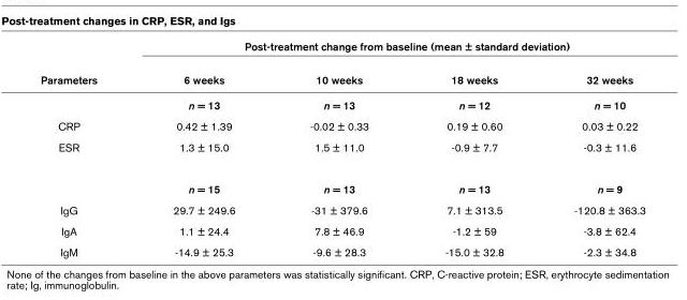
<table><thead><tr><td rowspan="2">Parameters</td><td colspan="4">Post-treatment change from baseline (mean ± standard deviation)</td></tr><tr><td>6 weeks</td><td>10 weeks</td><td>18 weeks</td><td>32 weeks</td></tr></thead><tbody><tr><td></td><td>n = 13</td><td>n = 13</td><td>n = 12</td><td>n = 10</td></tr><tr><td>CRP</td><td>0.42 ± 1.39</td><td>-0.02 ± 0.33</td><td>0.19 ± 0.60</td><td>0.03 ± 0.22</td></tr><tr><td rowspan="2">ESR</td><td>1.3 ± 15.0</td><td>1.5 ± 11.0</td><td>-0.9 ± 7.7</td><td>-0.3 ± 11.6</td></tr><tr><td>n = 15</td><td>n = 13</td><td>n = 13</td><td>n = 9</td></tr><tr><td>IgG</td><td>29.7 ± 249.6</td><td>-31 ± 379.6</td><td>7.1 ± 313.5</td><td>-120.8 ± 363.3</td></tr><tr><td>IgA</td><td>1.1 ± 24.4</td><td>7.8 ± 46.9</td><td>-1.2 ± 59</td><td>-3.8 ± 62.4</td></tr><tr><td>IgM</td><td>-14.9 ± 25.3</td><td>-9.6 ± 28.3</td><td>-15.0 ± 32.8</td><td>-2.3 ± 34.8</td></tr></tbody></table>